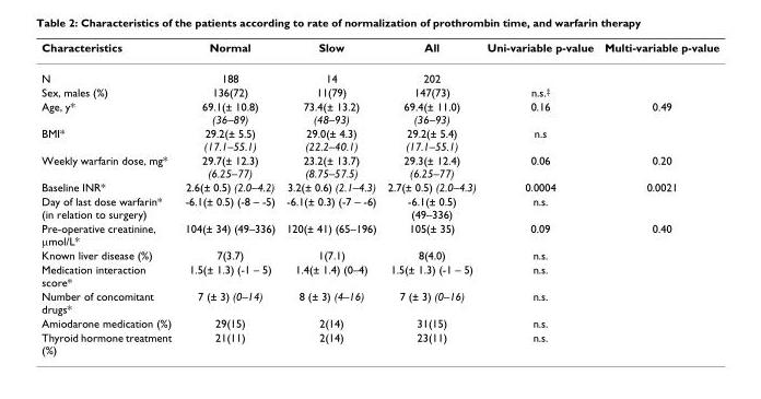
<table><thead><tr><td>Characteristics</td><td>Normal</td><td>Slow</td><td>All</td><td>Uni-variable p-value</td><td>Multi-variable p-value</td></tr></thead><tbody><tr><td>N</td><td>188</td><td>14</td><td>202</td><td></td><td></td></tr><tr><td>Sex, males (%)</td><td>136(72)</td><td>11(79)</td><td>147(73)</td><td>n.s.<sup>‡</sup></td><td></td></tr><tr><td>Age, y*</td><td>69.1(± 10.8) (36–89)</td><td>73.4(± 13.2) (48–93)</td><td>69.4(± 11.0) (36–93)</td><td>0.16</td><td>0.49</td></tr><tr><td>BMI*</td><td>29.2(± 5.5) (17.1–55.1)</td><td>29.0(± 4.3) (22.2–40.1)</td><td>29.2(± 5.4) (17.1–55.1)</td><td>n.s</td><td></td></tr><tr><td>Weekly warfarin dose, mg*</td><td>29.7(± 12.3) (6.25–77)</td><td>23.2(± 13.7) (8.75–57.5)</td><td>29.3(± 12.4) (6.25–77)</td><td>0.06</td><td>0.20</td></tr><tr><td>Baseline INR*</td><td>2.6(± 0.5) (2.0–4.2)</td><td>3.2(± 0.6) (2.1–4.3)</td><td>2.7(± 0.5) (2.0–4.3)</td><td>0.0004</td><td>0.0021</td></tr><tr><td>Day of last dose warfarin* (in relation to surgery)</td><td>-6.1(± 0.5) (-8 – -5)</td><td>-6.1(± 0.3) (-7 – -6)</td><td>-6.1(± 0.5) (49–336)</td><td>n.s.</td><td></td></tr><tr><td>Pre-operative creatinine, μmol/L*</td><td>104(± 34) (49–336)</td><td>120(± 41) (65–196)</td><td>105(± 35)</td><td>0.09</td><td>0.40</td></tr><tr><td>Known liver disease (%)</td><td>7(3.7)</td><td>1(7.1)</td><td>8(4.0)</td><td>n.s.</td><td></td></tr><tr><td>Medication interaction score*</td><td>1.5(± 1.3) (-1 – 5)</td><td>1.4(± 1.4) (0–4)</td><td>1.5(± 1.3) (-1 – 5)</td><td>n.s.</td><td></td></tr><tr><td>Number of concomitant drugs*</td><td>7 (± 3) (0–14)</td><td>8 (± 3) (4–16)</td><td>7 (± 3) (0–16)</td><td>n.s.</td><td></td></tr><tr><td>Amiodarone medication (%)</td><td>29(15)</td><td>2(14)</td><td>31(15)</td><td>n.s.</td><td></td></tr><tr><td>Thyroid hormone treatment (%)</td><td>21(11)</td><td>2(14)</td><td>23(11)</td><td>n.s.</td><td></td></tr></tbody></table>